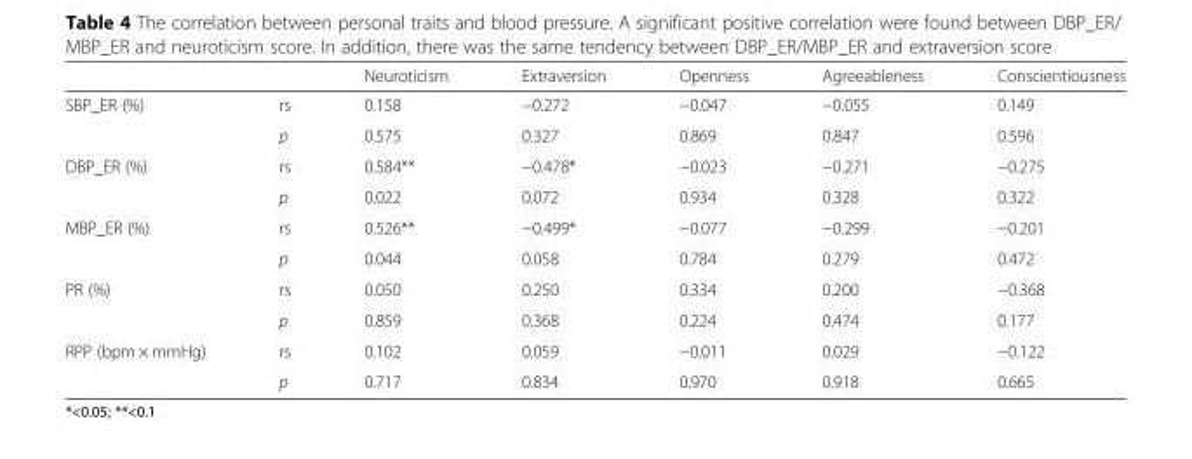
<table><thead><tr><td></td><td></td><td>Neuroticism</td><td>Extraversion</td><td>Openness</td><td>Agreeableness</td><td>Conscientiousness</td></tr></thead><tbody><tr><td rowspan="2">SBP_ER (%)</td><td>rs</td><td>0.158</td><td>−0.272</td><td>−0.047</td><td>−0.055</td><td>0.149</td></tr><tr><td>p</td><td>0.575</td><td>0.327</td><td>0.869</td><td>0.847</td><td>0.596</td></tr><tr><td rowspan="2">DBP_ER (%)</td><td>rs</td><td>0.584**</td><td>−0.478*</td><td>−0.023</td><td>−0.271</td><td>−0.275</td></tr><tr><td>p</td><td>0.022</td><td>0.072</td><td>0.934</td><td>0.328</td><td>0.322</td></tr><tr><td rowspan="2">MBP_ER (%)</td><td>rs</td><td>0.526**</td><td>−0.499*</td><td>−0.077</td><td>−0.299</td><td>−0.201</td></tr><tr><td>p</td><td>0.044</td><td>0.058</td><td>0.784</td><td>0.279</td><td>0.472</td></tr><tr><td rowspan="2">PR (%)</td><td>rs</td><td>0.050</td><td>0.250</td><td>0.334</td><td>0.200</td><td>−0.368</td></tr><tr><td>p</td><td>0.859</td><td>0.368</td><td>0.224</td><td>0.474</td><td>0.177</td></tr><tr><td rowspan="2">RPP (bpm × mmHg)</td><td>rs</td><td>0.102</td><td>0.059</td><td>−0.011</td><td>0.029</td><td>−0.122</td></tr><tr><td>p</td><td>0.717</td><td>0.834</td><td>0.970</td><td>0.918</td><td>0.665</td></tr></tbody></table>